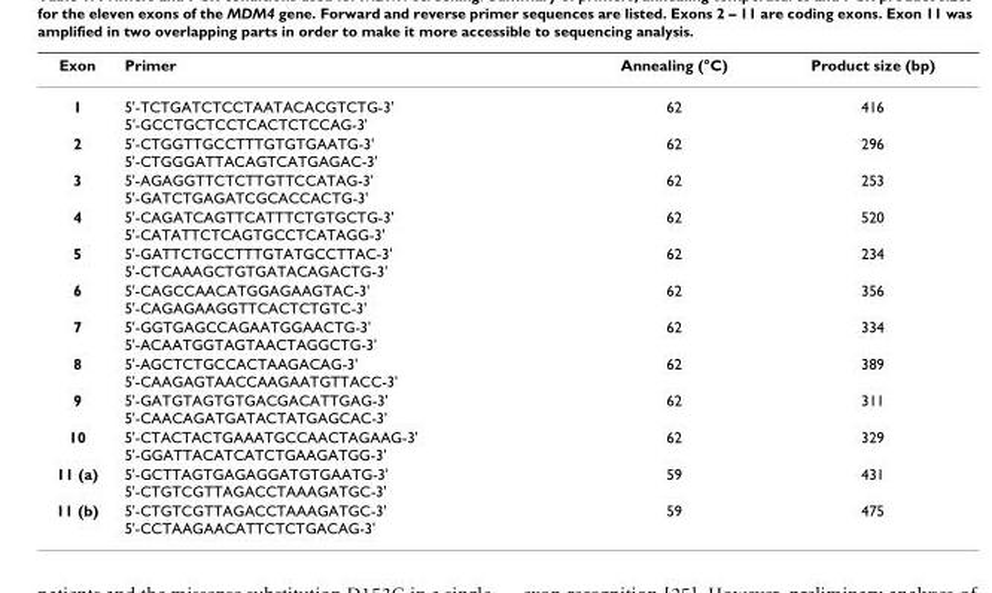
<table><thead><tr><td>Exon</td><td>Primer</td><td>Annealing (°C)</td><td>Product size (bp)</td></tr></thead><tbody><tr><td>1</td><td>5&#x27;-TCTGATCTCCTAATACACGTCTG-3&#x27; 5&#x27;-GCCTGCTCCTCACTCTCCAG-3&#x27;</td><td>62</td><td>416</td></tr><tr><td>2</td><td>5&#x27;-CTGGTTGCCTTTGTGTGAATG-3&#x27; 5&#x27;-CTGGGATTACAGTCATGAGAC-3&#x27;</td><td>62</td><td>296</td></tr><tr><td>3</td><td>5&#x27;-AGAGGTTCTCTTGTTCCATAG-3&#x27; 5&#x27;-GATCTGAGATCGCACCACTG-3&#x27;</td><td>62</td><td>253</td></tr><tr><td>4</td><td>5&#x27;-CAGATCAGTTCATTTCTGTGCTG-3&#x27; 5&#x27;-CATATTCTCAGTGCCTCATAGG-3&#x27;</td><td>62</td><td>520</td></tr><tr><td>5</td><td>5&#x27;-GATTCTGCCTTTGTATGCCTTAC-3&#x27; 5&#x27;-CTCAAAGCTGTGATACAGACTG-3&#x27;</td><td>62</td><td>234</td></tr><tr><td>6</td><td>5&#x27;-CAGCCAACATGGAGAAGTAC-3&#x27; 5&#x27;-CAGAGAAGGTTCACTCTGTC-3&#x27;</td><td>62</td><td>356</td></tr><tr><td>7</td><td>5&#x27;-GGTGAGCCAGAATGGAACTG-3&#x27; 5&#x27;-ACAATGGTAGTAACTAGGCTG-3&#x27;</td><td>62</td><td>334</td></tr><tr><td>8</td><td>5&#x27;-AGCTCTGCCACTAAGACAG-3&#x27; 5&#x27;-CAAGAGTAACCAAGAATGTTACC-3&#x27;</td><td>62</td><td>389</td></tr><tr><td>9</td><td>5&#x27;-GATGTAGTGTGACGACATTGAG-3&#x27; 5&#x27;-CAACAGATGATACTATGAGCAC-3&#x27;</td><td>62</td><td>311</td></tr><tr><td>10</td><td>5&#x27;-CTACTACTGAAATGCCAACTAGAAG-3&#x27; 5&#x27;-GGATTACATCATCTGAAGATGG-3&#x27;</td><td>62</td><td>329</td></tr><tr><td>11 (a)</td><td>5&#x27;-GCTTAGTGAGAGGATGTGAATG-3&#x27; 5&#x27;-CTGTCGTTAGACCTAAAGATGC-3&#x27;</td><td>59</td><td>431</td></tr><tr><td>11 (b)</td><td>5&#x27;-CTGTCGTTAGACCTAAAGATGC-3&#x27; 5&#x27;-CCTAAGAACATTCTCTGACAG-3&#x27;</td><td>59</td><td>475</td></tr></tbody></table>